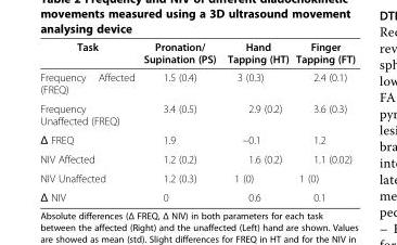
<table><thead><tr><td>Task</td><td>Pronation/ Supination (PS)</td><td>Hand Tapping (HT)</td><td>Finger Tapping (FT)</td></tr></thead><tbody><tr><td>Frequency Affected (FREQ)</td><td>1.5 (0.4)</td><td>3 (0.3)</td><td>2.4 (0.1)</td></tr><tr><td>Frequency Unaffected (FREQ)</td><td>3.4 (0.5)</td><td>2.9 (0.2)</td><td>3.6 (0.3)</td></tr><tr><td>Δ FREQ</td><td>1.9</td><td>−0.1</td><td>1.2</td></tr><tr><td>NIV Affected</td><td>1.2 (0.2)</td><td>1.6 (0.2)</td><td>1.1 (0.02)</td></tr><tr><td>NIV Unaffected</td><td>1.2 (0.3)</td><td>1 (0)</td><td>1 (0)</td></tr><tr><td>Δ NIV</td><td>0</td><td>0.6</td><td>0.1</td></tr></tbody></table>